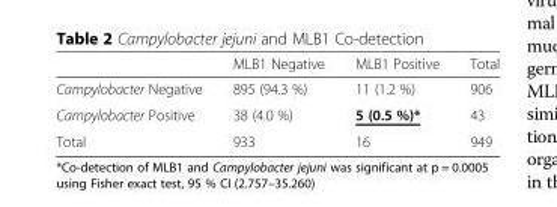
<table><thead><tr><td></td><td>MLB1 Negative</td><td>MLB1 Positive</td><td>Total</td></tr></thead><tbody><tr><td>Campylobacter Negative</td><td>895 (94.3 %)</td><td>11 (1.2 %)</td><td>906</td></tr><tr><td>Campylobacter Positive</td><td>38 (4.0 %)</td><td>5 (0.5 %)*</td><td>43</td></tr><tr><td>Total</td><td>933</td><td>16</td><td>949</td></tr></tbody></table>